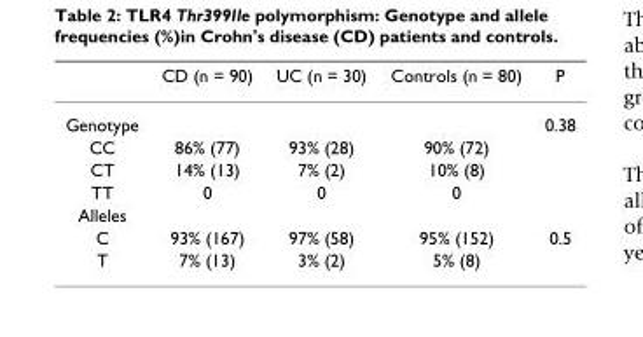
<table><thead><tr><td></td><td>CD (n = 90)</td><td>UC (n = 30)</td><td>Controls (n = 80)</td><td>P</td></tr></thead><tbody><tr><td>Genotype</td><td></td><td></td><td></td><td>0.38</td></tr><tr><td>CC</td><td>86% (77)</td><td>93% (28)</td><td>90% (72)</td><td></td></tr><tr><td>CT</td><td>14% (13)</td><td>7% (2)</td><td>10% (8)</td><td></td></tr><tr><td>TT</td><td>0</td><td>0</td><td>0</td><td></td></tr><tr><td colspan="5">Alleles</td></tr><tr><td>C</td><td>93% (167)</td><td>97% (58)</td><td>95% (152)</td><td>0.5</td></tr><tr><td>T</td><td>7% (13)</td><td>3% (2)</td><td>5% (8)</td><td></td></tr></tbody></table>